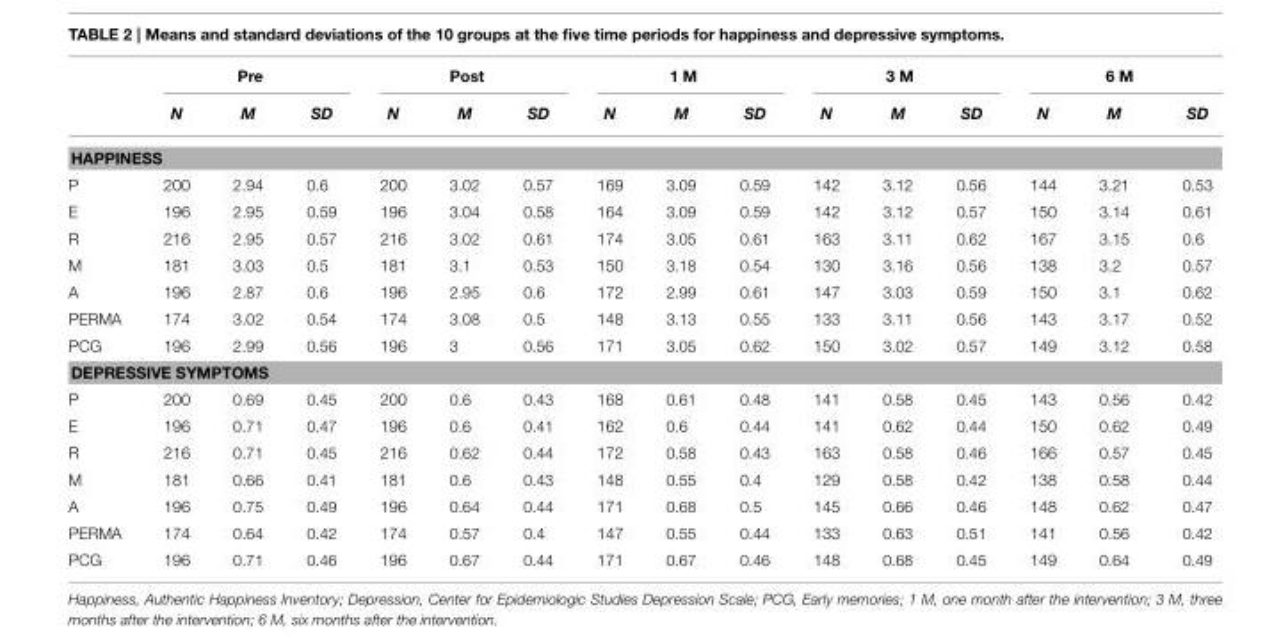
<table><thead><tr><td rowspan="2"></td><td colspan="3">Pre</td><td colspan="3">Post</td><td colspan="3">1 M</td><td colspan="3">3 M</td><td colspan="3">6 M</td></tr><tr><td>N</td><td>M</td><td>SD</td><td>N</td><td>M</td><td>SD</td><td>N</td><td>M</td><td>SD</td><td>N</td><td>M</td><td>SD</td><td>N</td><td>M</td><td>SD</td></tr></thead><tbody><tr><td colspan="16">HAPPINESS</td></tr><tr><td>P</td><td>200</td><td>2.94</td><td>0.6</td><td>200</td><td>3.02</td><td>0.57</td><td>169</td><td>3.09</td><td>0.59</td><td>142</td><td>3.12</td><td>0.56</td><td>144</td><td>3.21</td><td>0.53</td></tr><tr><td>E</td><td>196</td><td>2.95</td><td>0.59</td><td>196</td><td>3.04</td><td>0.58</td><td>164</td><td>3.09</td><td>0.59</td><td>142</td><td>3.12</td><td>0.57</td><td>150</td><td>3.14</td><td>0.61</td></tr><tr><td>R</td><td>216</td><td>2.95</td><td>0.57</td><td>216</td><td>3.02</td><td>0.61</td><td>174</td><td>3.05</td><td>0.61</td><td>163</td><td>3.11</td><td>0.62</td><td>167</td><td>3.15</td><td>0.6</td></tr><tr><td>M</td><td>181</td><td>3.03</td><td>0.5</td><td>181</td><td>3.1</td><td>0.53</td><td>150</td><td>3.18</td><td>0.54</td><td>130</td><td>3.16</td><td>0.56</td><td>138</td><td>3.2</td><td>0.57</td></tr><tr><td>A</td><td>196</td><td>2.87</td><td>0.6</td><td>196</td><td>2.95</td><td>0.6</td><td>172</td><td>2.99</td><td>0.61</td><td>147</td><td>3.03</td><td>0.59</td><td>150</td><td>3.1</td><td>0.62</td></tr><tr><td>PERMA</td><td>174</td><td>3.02</td><td>0.54</td><td>174</td><td>3.08</td><td>0.5</td><td>148</td><td>3.13</td><td>0.55</td><td>133</td><td>3.11</td><td>0.56</td><td>143</td><td>3.17</td><td>0.52</td></tr><tr><td>PCG</td><td>196</td><td>2.99</td><td>0.56</td><td>196</td><td>3</td><td>0.56</td><td>171</td><td>3.05</td><td>0.62</td><td>150</td><td>3.02</td><td>0.57</td><td>149</td><td>3.12</td><td>0.58</td></tr><tr><td colspan="16">DEPRESSIVE SYMPTOMS</td></tr><tr><td>P</td><td>200</td><td>0.69</td><td>0.45</td><td>200</td><td>0.6</td><td>0.43</td><td>168</td><td>0.61</td><td>0.48</td><td>141</td><td>0.58</td><td>0.45</td><td>143</td><td>0.56</td><td>0.42</td></tr><tr><td>E</td><td>196</td><td>0.71</td><td>0.47</td><td>196</td><td>0.6</td><td>0.41</td><td>162</td><td>0.6</td><td>0.44</td><td>141</td><td>0.62</td><td>0.44</td><td>150</td><td>0.62</td><td>0.49</td></tr><tr><td>R</td><td>216</td><td>0.71</td><td>0.45</td><td>216</td><td>0.62</td><td>0.44</td><td>172</td><td>0.58</td><td>0.43</td><td>163</td><td>0.58</td><td>0.46</td><td>166</td><td>0.57</td><td>0.45</td></tr><tr><td>M</td><td>181</td><td>0.66</td><td>0.41</td><td>181</td><td>0.6</td><td>0.43</td><td>148</td><td>0.55</td><td>0.4</td><td>129</td><td>0.58</td><td>0.42</td><td>138</td><td>0.58</td><td>0.44</td></tr><tr><td>A</td><td>196</td><td>0.75</td><td>0.49</td><td>196</td><td>0.64</td><td>0.44</td><td>171</td><td>0.68</td><td>0.5</td><td>145</td><td>0.66</td><td>0.46</td><td>148</td><td>0.62</td><td>0.47</td></tr><tr><td>PERMA</td><td>174</td><td>0.64</td><td>0.42</td><td>174</td><td>0.57</td><td>0.4</td><td>147</td><td>0.55</td><td>0.44</td><td>133</td><td>0.63</td><td>0.51</td><td>141</td><td>0.56</td><td>0.42</td></tr><tr><td>PCG</td><td>196</td><td>0.71</td><td>0.46</td><td>196</td><td>0.67</td><td>0.44</td><td>171</td><td>0.67</td><td>0.46</td><td>148</td><td>0.68</td><td>0.45</td><td>149</td><td>0.64</td><td>0.49</td></tr></tbody></table>